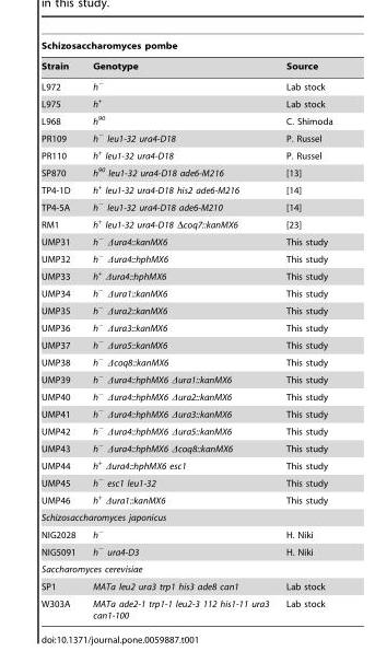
<table><thead><tr><td colspan="3">Schizosaccharomyces pombe</td></tr><tr><td>Strain</td><td>Genotype</td><td>Source</td></tr></thead><tbody><tr><td>L972</td><td>h<sup>−</sup></td><td>Lab stock</td></tr><tr><td>L975</td><td>h<sup>+</sup></td><td>Lab stock</td></tr><tr><td>L968</td><td>h<sup>90</sup></td><td>C. Shimoda</td></tr><tr><td>PR109</td><td>h<sup>−</sup> leu1-32 ura4-D18</td><td>P. Russel</td></tr><tr><td>PR110</td><td>h<sup>+</sup> leu1-32 ura4-D18</td><td>P. Russel</td></tr><tr><td>SP870</td><td>h<sup>90</sup> leu1-32 ura4-D18 ade6-M216</td><td>[13]</td></tr><tr><td>TP4-1D</td><td>h<sup>+</sup> leu1-32 ura4-D18 his2 ade6-M216</td><td>[14]</td></tr><tr><td>TP4-5A</td><td>h<sup>−</sup> leu1-32 ura4-D18 ade6-M210</td><td>[14]</td></tr><tr><td>RM1</td><td>h<sup>+</sup> leu1-32 ura4-D18 Δcoq7::kanMX6</td><td>[23]</td></tr><tr><td>UMP31</td><td>h<sup>−</sup> Δura4::kanMX6</td><td>This study</td></tr><tr><td>UMP32</td><td>h<sup>−</sup> Δura4::hphMX6</td><td>This study</td></tr><tr><td>UMP33</td><td>h<sup>+</sup> Δura4::hphMX6</td><td>This study</td></tr><tr><td>UMP34</td><td>h<sup>−</sup> Δura1::kanMX6</td><td>This study</td></tr><tr><td>UMP35</td><td>h<sup>−</sup> Δura2::kanMX6</td><td>This study</td></tr><tr><td>UMP36</td><td>h<sup>−</sup> Δura3::kanMX6</td><td>This study</td></tr><tr><td>UMP37</td><td>h<sup>−</sup> Δura5::kanMX6</td><td>This study</td></tr><tr><td>UMP38</td><td>h<sup>−</sup> Δcoq8::kanMX6</td><td>This study</td></tr><tr><td>UMP39</td><td>h<sup>−</sup> Δura4::hphMX6 Δura1::kanMX6</td><td>This study</td></tr><tr><td>UMP40</td><td>h<sup>−</sup> Δura4::hphMX6 Δura2::kanMX6</td><td>This study</td></tr><tr><td>UMP41</td><td>h<sup>−</sup> Δura4::hphMX6 Δura3::kanMX6</td><td>This study</td></tr><tr><td>UMP42</td><td>h<sup>−</sup> Δura4::hphMX6 Δura5::kanMX6</td><td>This study</td></tr><tr><td>UMP43</td><td>h<sup>−</sup> Δura4::hphMX6 Δcoq8::kanMX6</td><td>This study</td></tr><tr><td>UMP44</td><td>h<sup>+</sup> Δura4::hphMX6 esc1</td><td>This study</td></tr><tr><td>UMP45</td><td>h<sup>−</sup> esc1 leu1-32</td><td>This study</td></tr><tr><td>UMP46</td><td>h<sup>+</sup> Δura1::kanMX6</td><td>This study</td></tr><tr><td colspan="3">Schizosaccharomyces japonicus</td></tr><tr><td>NIG2028</td><td>h<sup>−</sup></td><td>H. Niki</td></tr><tr><td>NIG5091</td><td>h<sup>−</sup> ura4-D3</td><td>H. Niki</td></tr><tr><td colspan="3">Saccharomyces cerevisiae</td></tr><tr><td>SP1</td><td>MATa leu2 ura3 trp1 his3 ade8 can1</td><td>Lab stock</td></tr><tr><td>W303A</td><td>MATa ade2-1 trp1-1 leu2-3 112 his1-11 ura3 can1-100</td><td>Lab stock</td></tr></tbody></table>